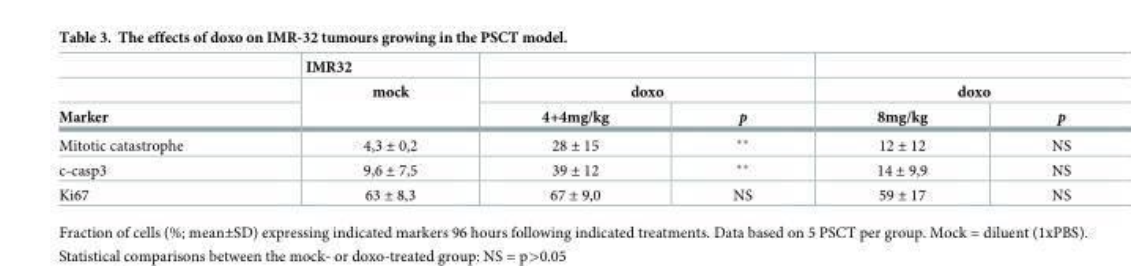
<table><thead><tr><td rowspan="3">Marker</td><td rowspan="3">IMR32 mock</td><td></td><td></td><td></td><td></td></tr><tr><td colspan="2">doxo</td><td colspan="2">doxo</td></tr><tr><td>4+4mg/kg</td><td>p</td><td>8mg/kg</td><td>p</td></tr></thead><tbody><tr><td>Mitotic catastrophe</td><td>4,3 ± 0,2</td><td>28 ± 15</td><td>**</td><td>12 ± 12</td><td>NS</td></tr><tr><td>c-casp3</td><td>9,6 ± 7,5</td><td>39 ± 12</td><td>**</td><td>14 ± 9,9</td><td>NS</td></tr><tr><td>Ki67</td><td>63 ± 8,3</td><td>67 ± 9,0</td><td>NS</td><td>59 ± 17</td><td>NS</td></tr></tbody></table>